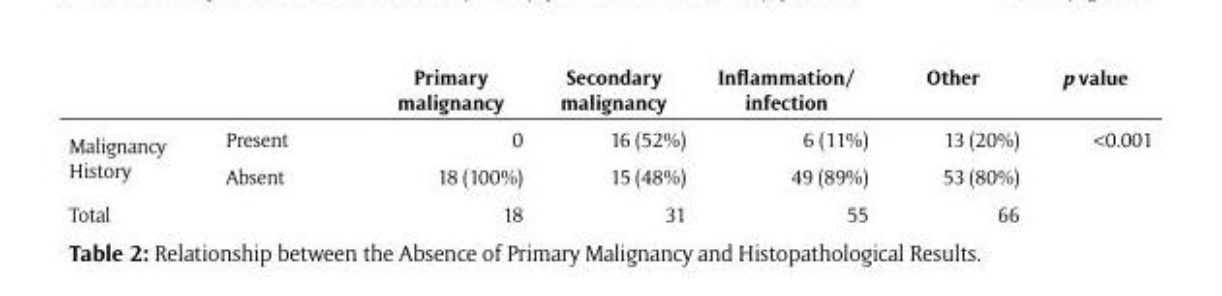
<table><thead><tr><td></td><td></td><td>Primary malignancy</td><td>Secondary malignancy</td><td>Inflammation/ infection</td><td>Other</td><td>p value</td></tr></thead><tbody><tr><td rowspan="2">Malignancy History</td><td>Present</td><td>0</td><td>16 (52%)</td><td>6 (11%)</td><td>13 (20%)</td><td>&lt;0.001</td></tr><tr><td>Absent</td><td>18 (100%)</td><td>15 (48%)</td><td>49 (89%)</td><td>53 (80%)</td><td></td></tr><tr><td>Total</td><td></td><td>18</td><td>31</td><td>55</td><td>66</td><td></td></tr></tbody></table>